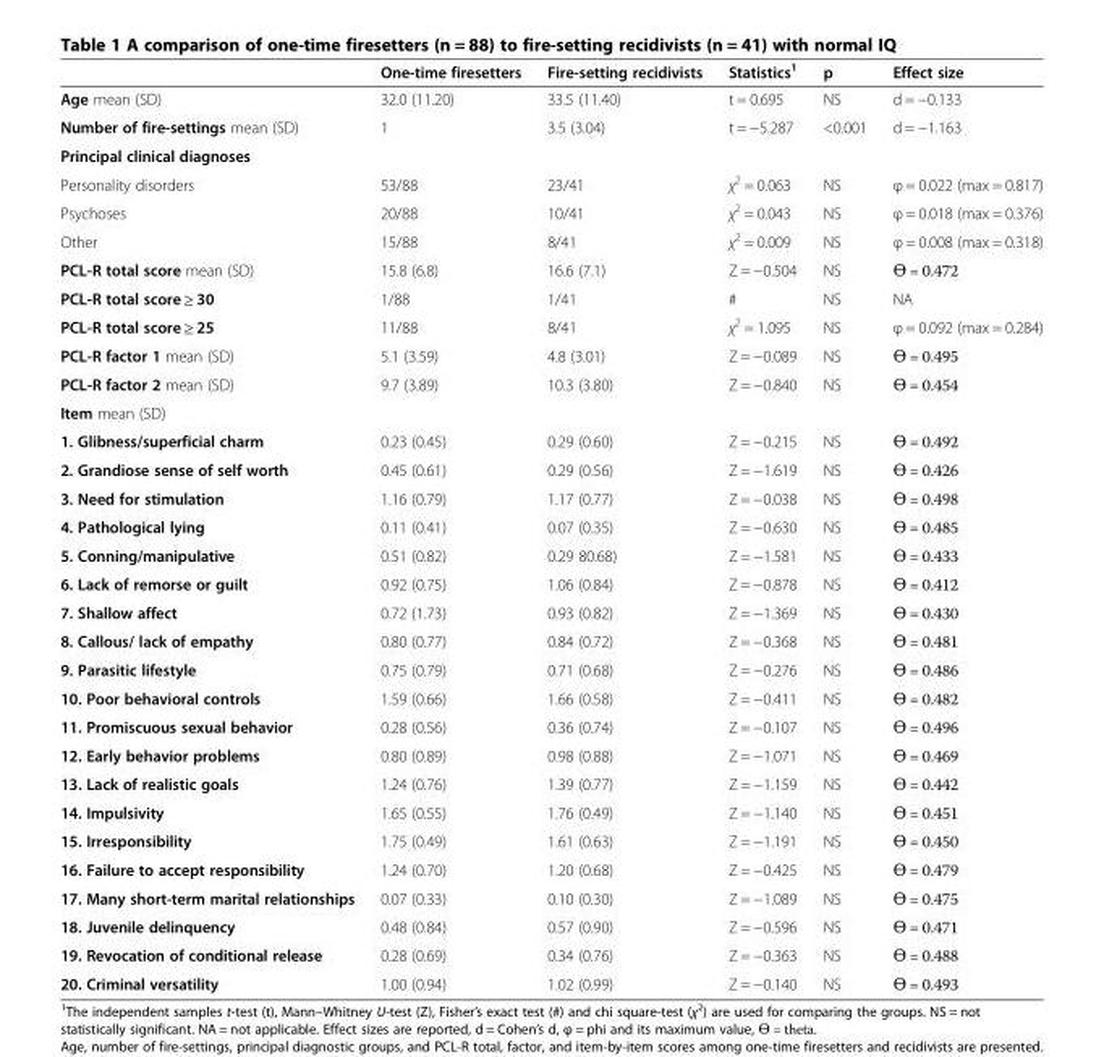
<table><thead><tr><td></td><td>One-time firesetters</td><td>Fire-setting recidivists</td><td>Statistics<sup>1</sup></td><td>p</td><td>Effect size</td></tr></thead><tbody><tr><td>Age mean (SD)</td><td>32.0 (11.20)</td><td>33.5 (11.40)</td><td>t = 0.695</td><td>NS</td><td>d = −0.133</td></tr><tr><td>Number of fire-settings mean (SD)</td><td>1</td><td>3.5 (3.04)</td><td>t = −5.287</td><td>&lt;0.001</td><td>d = −1.163</td></tr><tr><td colspan="6">Principal clinical diagnoses</td></tr><tr><td>Personality disorders</td><td>53/88</td><td>23/41</td><td>χ<sup>2</sup> = 0.063</td><td>NS</td><td>φ = 0.022 (max = 0.817)</td></tr><tr><td>Psychoses</td><td>20/88</td><td>10/41</td><td>χ<sup>2</sup> = 0.043</td><td>NS</td><td>φ = 0.018 (max = 0.376)</td></tr><tr><td>Other</td><td>15/88</td><td>8/41</td><td>χ<sup>2</sup> = 0.009</td><td>NS</td><td>φ = 0.008 (max = 0.318)</td></tr><tr><td>PCL-R total score mean (SD)</td><td>15.8 (6.8)</td><td>16.6 (7.1)</td><td>Z = −0.504</td><td>NS</td><td>ϴ = 0.472</td></tr><tr><td>PCL-R total score ≥ 30</td><td>1/88</td><td>1/41</td><td>#</td><td>NS</td><td>NA</td></tr><tr><td>PCL-R total score ≥ 25</td><td>11/88</td><td>8/41</td><td>χ<sup>2</sup> = 1.095</td><td>NS</td><td>φ = 0.092 (max = 0.284)</td></tr><tr><td>PCL-R factor 1 mean (SD)</td><td>5.1 (3.59)</td><td>4.8 (3.01)</td><td>Z = −0.089</td><td>NS</td><td>ϴ = 0.495</td></tr><tr><td>PCL-R factor 2 mean (SD)</td><td>9.7 (3.89)</td><td>10.3 (3.80)</td><td>Z = −0.840</td><td>NS</td><td>ϴ = 0.454</td></tr><tr><td colspan="6">Item mean (SD)</td></tr><tr><td>1. Glibness/superficial charm</td><td>0.23 (0.45)</td><td>0.29 (0.60)</td><td>Z = −0.215</td><td>NS</td><td>ϴ = 0.492</td></tr><tr><td>2. Grandiose sense of self worth</td><td>0.45 (0.61)</td><td>0.29 (0.56)</td><td>Z = −1.619</td><td>NS</td><td>ϴ = 0.426</td></tr><tr><td>3. Need for stimulation</td><td>1.16 (0.79)</td><td>1.17 (0.77)</td><td>Z = −0.038</td><td>NS</td><td>ϴ = 0.498</td></tr><tr><td>4. Pathological lying</td><td>0.11 (0.41)</td><td>0.07 (0.35)</td><td>Z = −0.630</td><td>NS</td><td>ϴ = 0.485</td></tr><tr><td>5. Conning/manipulative</td><td>0.51 (0.82)</td><td>0.29 80.68)</td><td>Z = −1.581</td><td>NS</td><td>ϴ = 0.433</td></tr><tr><td>6. Lack of remorse or guilt</td><td>0.92 (0.75)</td><td>1.06 (0.84)</td><td>Z = −0.878</td><td>NS</td><td>ϴ = 0.412</td></tr><tr><td>7. Shallow affect</td><td>0.72 (1.73)</td><td>0.93 (0.82)</td><td>Z = −1.369</td><td>NS</td><td>ϴ = 0.430</td></tr><tr><td>8. Callous/ lack of empathy</td><td>0.80 (0.77)</td><td>0.84 (0.72)</td><td>Z = −0.368</td><td>NS</td><td>ϴ = 0.481</td></tr><tr><td>9. Parasitic lifestyle</td><td>0.75 (0.79)</td><td>0.71 (0.68)</td><td>Z = −0.276</td><td>NS</td><td>ϴ = 0.486</td></tr><tr><td>10. Poor behavioral controls</td><td>1.59 (0.66)</td><td>1.66 (0.58)</td><td>Z = −0.411</td><td>NS</td><td>ϴ = 0.482</td></tr><tr><td>11. Promiscuous sexual behavior</td><td>0.28 (0.56)</td><td>0.36 (0.74)</td><td>Z = −0.107</td><td>NS</td><td>ϴ = 0.496</td></tr><tr><td>12. Early behavior problems</td><td>0.80 (0.89)</td><td>0.98 (0.88)</td><td>Z = −1.071</td><td>NS</td><td>ϴ = 0.469</td></tr><tr><td>13. Lack of realistic goals</td><td>1.24 (0.76)</td><td>1.39 (0.77)</td><td>Z = −1.159</td><td>NS</td><td>ϴ = 0.442</td></tr><tr><td>14. Impulsivity</td><td>1.65 (0.55)</td><td>1.76 (0.49)</td><td>Z = −1.140</td><td>NS</td><td>ϴ = 0.451</td></tr><tr><td>15. Irresponsibility</td><td>1.75 (0.49)</td><td>1.61 (0.63)</td><td>Z = −1.191</td><td>NS</td><td>ϴ = 0.450</td></tr><tr><td>16. Failure to accept responsibility</td><td>1.24 (0.70)</td><td>1.20 (0.68)</td><td>Z = −0.425</td><td>NS</td><td>ϴ = 0.479</td></tr><tr><td>17. Many short-term marital relationships</td><td>0.07 (0.33)</td><td>0.10 (0.30)</td><td>Z = −1.089</td><td>NS</td><td>ϴ = 0.475</td></tr><tr><td>18. Juvenile delinquency</td><td>0.48 (0.84)</td><td>0.57 (0.90)</td><td>Z = −0.596</td><td>NS</td><td>ϴ = 0.471</td></tr><tr><td>19. Revocation of conditional release</td><td>0.28 (0.69)</td><td>0.34 (0.76)</td><td>Z = −0.363</td><td>NS</td><td>ϴ = 0.488</td></tr><tr><td>20. Criminal versatility</td><td>1.00 (0.94)</td><td>1.02 (0.99)</td><td>Z = −0.140</td><td>NS</td><td>ϴ = 0.493</td></tr></tbody></table>